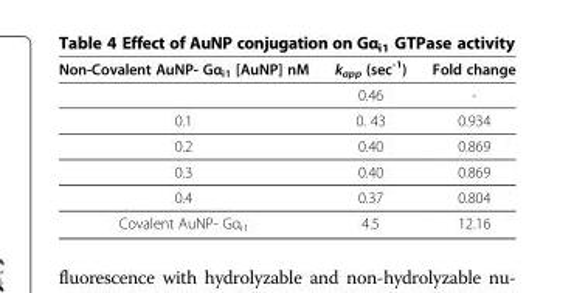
<table><thead><tr><td>Non-Covalent AuNP- Gα<sub>i1</sub> [AuNP] nM</td><td>k<sub>app</sub> (sec<sup>-1</sup>)</td><td>Fold change</td></tr></thead><tbody><tr><td></td><td>0.46</td><td>-</td></tr><tr><td>0.1</td><td>0. 43</td><td>0.934</td></tr><tr><td>0.2</td><td>0.40</td><td>0.869</td></tr><tr><td>0.3</td><td>0.40</td><td>0.869</td></tr><tr><td>0.4</td><td>0.37</td><td>0.804</td></tr><tr><td>Covalent AuNP- Gα<sub>i1</sub></td><td>4.5</td><td>12.16</td></tr></tbody></table>